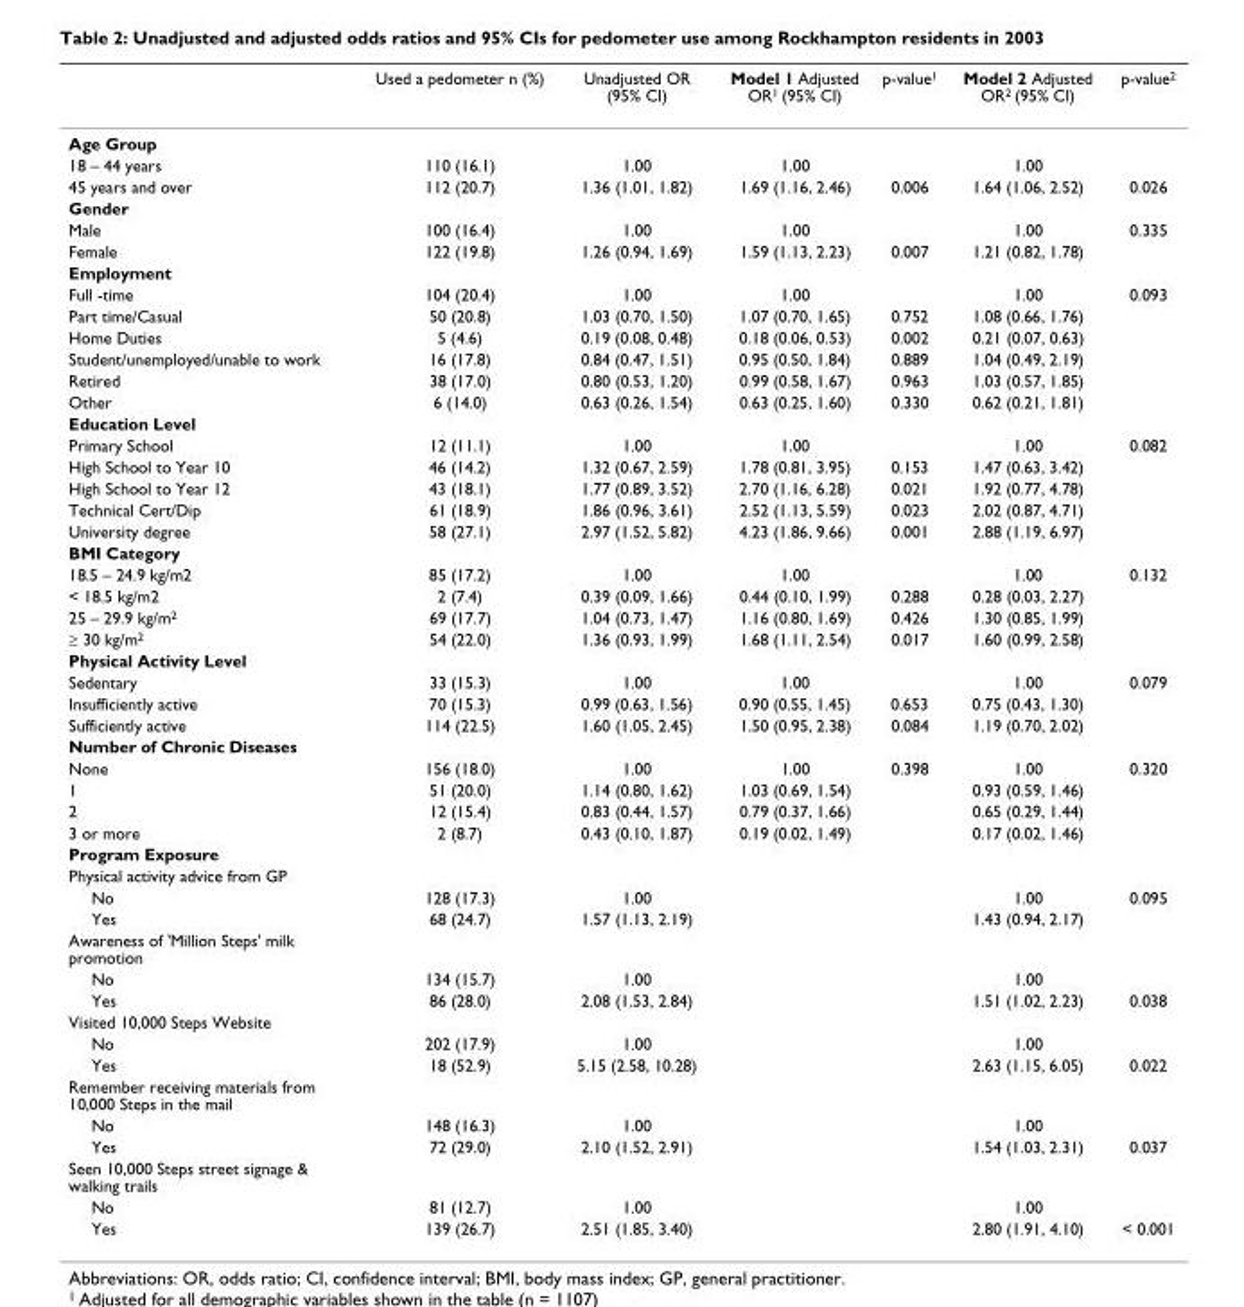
<table><thead><tr><td></td><td>Used a pedometer n (%)</td><td>Unadjusted OR (95% CI)</td><td>Model 1 Adjusted OR<sup>1</sup> (95% CI)</td><td>p-value<sup>1</sup></td><td>Model 2 Adjusted OR<sup>2</sup> (95% CI)</td><td>p-value<sup>2</sup></td></tr></thead><tbody><tr><td colspan="7">Age Group</td></tr><tr><td>18 – 44 years</td><td>110 (16.1)</td><td>1.00</td><td>1.00</td><td></td><td>1.00</td><td></td></tr><tr><td>45 years and over</td><td>112 (20.7)</td><td>1.36 (1.01, 1.82)</td><td>1.69 (1.16, 2.46)</td><td>0.006</td><td>1.64 (1.06, 2.52)</td><td>0.026</td></tr><tr><td colspan="7">Gender</td></tr><tr><td>Male</td><td>100 (16.4)</td><td>1.00</td><td>1.00</td><td></td><td>1.00</td><td>0.335</td></tr><tr><td>Female</td><td>122 (19.8)</td><td>1.26 (0.94, 1.69)</td><td>1.59 (1.13, 2.23)</td><td>0.007</td><td>1.21 (0.82, 1.78)</td><td></td></tr><tr><td colspan="7">Employment</td></tr><tr><td>Full -time</td><td>104 (20.4)</td><td>1.00</td><td>1.00</td><td></td><td>1.00</td><td>0.093</td></tr><tr><td>Part time/Casual</td><td>50 (20.8)</td><td>1.03 (0.70, 1.50)</td><td>1.07 (0.70, 1.65)</td><td>0.752</td><td>1.08 (0.66, 1.76)</td><td></td></tr><tr><td>Home Duties</td><td>5 (4.6)</td><td>0.19 (0.08, 0.48)</td><td>0.18 (0.06, 0.53)</td><td>0.002</td><td>0.21 (0.07, 0.63)</td><td></td></tr><tr><td>Student/unemployed/unable to work</td><td>16 (17.8)</td><td>0.84 (0.47, 1.51)</td><td>0.95 (0.50, 1.84)</td><td>0.889</td><td>1.04 (0.49, 2.19)</td><td></td></tr><tr><td>Retired</td><td>38 (17.0)</td><td>0.80 (0.53, 1.20)</td><td>0.99 (0.58, 1.67)</td><td>0.963</td><td>1.03 (0.57, 1.85)</td><td></td></tr><tr><td>Other</td><td>6 (14.0)</td><td>0.63 (0.26, 1.54)</td><td>0.63 (0.25, 1.60)</td><td>0.330</td><td>0.62 (0.21, 1.81)</td><td></td></tr><tr><td colspan="7">Education Level</td></tr><tr><td>Primary School</td><td>12 (11.1)</td><td>1.00</td><td>1.00</td><td></td><td>1.00</td><td>0.082</td></tr><tr><td>High School to Year 10</td><td>46 (14.2)</td><td>1.32 (0.67, 2.59)</td><td>1.78 (0.81, 3.95)</td><td>0.153</td><td>1.47 (0.63, 3.42)</td><td></td></tr><tr><td>High School to Year 12</td><td>43 (18.1)</td><td>1.77 (0.89, 3.52)</td><td>2.70 (1.16, 6.28)</td><td>0.021</td><td>1.92 (0.77, 4.78)</td><td></td></tr><tr><td>Technical Cert/Dip</td><td>61 (18.9)</td><td>1.86 (0.96, 3.61)</td><td>2.52 (1.13, 5.59)</td><td>0.023</td><td>2.02 (0.87, 4.71)</td><td></td></tr><tr><td>University degree</td><td>58 (27.1)</td><td>2.97 (1.52, 5.82)</td><td>4.23 (1.86, 9.66)</td><td>0.001</td><td>2.88 (1.19, 6.97)</td><td></td></tr><tr><td colspan="7">BMI Category</td></tr><tr><td>18.5 – 24.9 kg/m2</td><td>85 (17.2)</td><td>1.00</td><td>1.00</td><td></td><td>1.00</td><td>0.132</td></tr><tr><td>&lt; 18.5 kg/m2</td><td>2 (7.4)</td><td>0.39 (0.09, 1.66)</td><td>0.44 (0.10, 1.99)</td><td>0.288</td><td>0.28 (0.03, 2.27)</td><td></td></tr><tr><td>25 – 29.9 kg/m<sup>2</sup></td><td>69 (17.7)</td><td>1.04 (0.73, 1.47)</td><td>1.16 (0.80, 1.69)</td><td>0.426</td><td>1.30 (0.85, 1.99)</td><td></td></tr><tr><td>≥ 30 kg/m<sup>2</sup></td><td>54 (22.0)</td><td>1.36 (0.93, 1.99)</td><td>1.68 (1.11, 2.54)</td><td>0.017</td><td>1.60 (0.99, 2.58)</td><td></td></tr><tr><td colspan="7">Physical Activity Level</td></tr><tr><td>Sedentary</td><td>33 (15.3)</td><td>1.00</td><td>1.00</td><td></td><td>1.00</td><td>0.079</td></tr><tr><td>Insufficiently active</td><td>70 (15.3)</td><td>0.99 (0.63, 1.56)</td><td>0.90 (0.55, 1.45)</td><td>0.653</td><td>0.75 (0.43, 1.30)</td><td></td></tr><tr><td>Sufficiently active</td><td>114 (22.5)</td><td>1.60 (1.05, 2.45)</td><td>1.50 (0.95, 2.38)</td><td>0.084</td><td>1.19 (0.70, 2.02)</td><td></td></tr><tr><td colspan="7">Number of Chronic Diseases</td></tr><tr><td>None</td><td>156 (18.0)</td><td>1.00</td><td>1.00</td><td>0.398</td><td>1.00</td><td>0.320</td></tr><tr><td>1</td><td>51 (20.0)</td><td>1.14 (0.80, 1.62)</td><td>1.03 (0.69, 1.54)</td><td></td><td>0.93 (0.59, 1.46)</td><td></td></tr><tr><td>2</td><td>12 (15.4)</td><td>0.83 (0.44, 1.57)</td><td>0.79 (0.37, 1.66)</td><td></td><td>0.65 (0.29, 1.44)</td><td></td></tr><tr><td>3 or more</td><td>2 (8.7)</td><td>0.43 (0.10, 1.87)</td><td>0.19 (0.02, 1.49)</td><td></td><td>0.17 (0.02, 1.46)</td><td></td></tr><tr><td colspan="7">Program Exposure</td></tr><tr><td colspan="7">Physical activity advice from GP</td></tr><tr><td>No</td><td>128 (17.3)</td><td>1.00</td><td></td><td></td><td>1.00</td><td>0.095</td></tr><tr><td>Yes</td><td>68 (24.7)</td><td>1.57 (1.13, 2.19)</td><td></td><td></td><td>1.43 (0.94, 2.17)</td><td></td></tr><tr><td colspan="7">Awareness of &#x27;Million Steps&#x27; milk promotion</td></tr><tr><td>No</td><td>134 (15.7)</td><td>1.00</td><td></td><td></td><td>1.00</td><td></td></tr><tr><td>Yes</td><td>86 (28.0)</td><td>2.08 (1.53, 2.84)</td><td></td><td></td><td>1.51 (1.02, 2.23)</td><td>0.038</td></tr><tr><td colspan="7">Visited 10,000 Steps Website</td></tr><tr><td>No</td><td>202 (17.9)</td><td>1.00</td><td></td><td></td><td>1.00</td><td></td></tr><tr><td>Yes</td><td>18 (52.9)</td><td>5.15 (2.58, 10.28)</td><td></td><td></td><td>2.63 (1.15, 6.05)</td><td>0.022</td></tr><tr><td colspan="7">Remember receiving materials from 10,000 Steps in the mail</td></tr><tr><td>No</td><td>148 (16.3)</td><td>1.00</td><td></td><td></td><td>1.00</td><td></td></tr><tr><td>Yes</td><td>72 (29.0)</td><td>2.10 (1.52, 2.91)</td><td></td><td></td><td>1.54 (1.03, 2.31)</td><td>0.037</td></tr><tr><td colspan="7">Seen 10,000 Steps street signage &amp; walking trails</td></tr><tr><td>No</td><td>81 (12.7)</td><td>1.00</td><td></td><td></td><td>1.00</td><td></td></tr><tr><td>Yes</td><td>139 (26.7)</td><td>2.51 (1.85, 3.40)</td><td></td><td></td><td>2.80 (1.91, 4.10)</td><td>&lt; 0.001</td></tr></tbody></table>